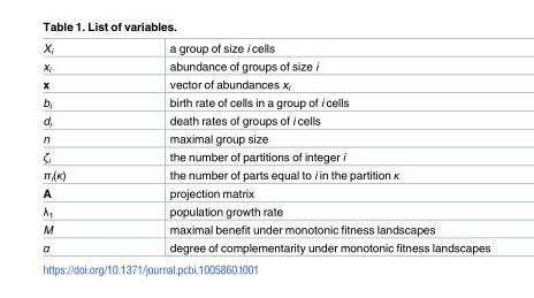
<table><tbody><tr><td>X<sub>i</sub></td><td>a group of size i cells</td></tr><tr><td>x<sub>i</sub></td><td>abundance of groups of size i</td></tr><tr><td>x</td><td>vector of abundances x<sub>i</sub></td></tr><tr><td>b<sub>i</sub></td><td>birth rate of cells in a group of i cells</td></tr><tr><td>d<sub>i</sub></td><td>death rates of groups of i cells</td></tr><tr><td>n</td><td>maximal group size</td></tr><tr><td>ζ<sub>i</sub></td><td>the number of partitions of integer i</td></tr><tr><td>π<sub>i</sub>(κ)</td><td>the number of parts equal to i in the partition κ</td></tr><tr><td>A</td><td>projection matrix</td></tr><tr><td>λ<sub>1</sub></td><td>population growth rate</td></tr><tr><td>M</td><td>maximal benefit under monotonic fitness landscapes</td></tr><tr><td>α</td><td>degree of complementarity under monotonic fitness landscapes</td></tr></tbody></table>